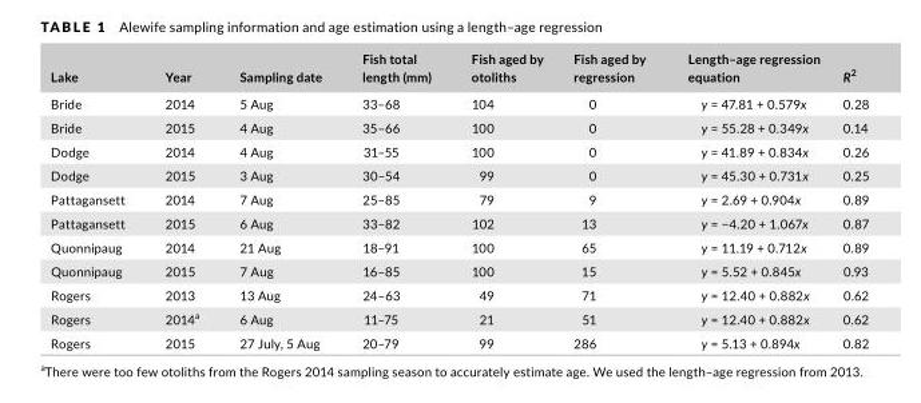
<table><thead><tr><td>Lake</td><td>Year</td><td>Sampling date</td><td>Fish total length (mm)</td><td>Fish aged by otoliths</td><td>Fish aged by regression</td><td>Length–age regression equation</td><td>R<sup>2</sup></td></tr></thead><tbody><tr><td>Bride</td><td>2014</td><td>5 Aug</td><td>33–68</td><td>104</td><td>0</td><td>y = 47.81 + 0.579x</td><td>0.28</td></tr><tr><td>Bride</td><td>2015</td><td>4 Aug</td><td>35–66</td><td>100</td><td>0</td><td>y = 55.28 + 0.349x</td><td>0.14</td></tr><tr><td>Dodge</td><td>2014</td><td>4 Aug</td><td>31–55</td><td>100</td><td>0</td><td>y = 41.89 + 0.834x</td><td>0.26</td></tr><tr><td>Dodge</td><td>2015</td><td>3 Aug</td><td>30–54</td><td>99</td><td>0</td><td>y = 45.30 + 0.731x</td><td>0.25</td></tr><tr><td>Pattagansett</td><td>2014</td><td>7 Aug</td><td>25–85</td><td>79</td><td>9</td><td>y = 2.69 + 0.904x</td><td>0.89</td></tr><tr><td>Pattagansett</td><td>2015</td><td>6 Aug</td><td>33–82</td><td>102</td><td>13</td><td>y = −4.20 + 1.067x</td><td>0.87</td></tr><tr><td>Quonnipaug</td><td>2014</td><td>21 Aug</td><td>18–91</td><td>100</td><td>65</td><td>y = 11.19 + 0.712x</td><td>0.89</td></tr><tr><td>Quonnipaug</td><td>2015</td><td>7 Aug</td><td>16–85</td><td>100</td><td>15</td><td>y = 5.52 + 0.845x</td><td>0.93</td></tr><tr><td>Rogers</td><td>2013</td><td>13 Aug</td><td>24–63</td><td>49</td><td>71</td><td>y = 12.40 + 0.882x</td><td>0.62</td></tr><tr><td>Rogers</td><td>2014<sup>a</sup></td><td>6 Aug</td><td>11–75</td><td>21</td><td>51</td><td>y = 12.40 + 0.882x</td><td>0.62</td></tr><tr><td>Rogers</td><td>2015</td><td>27 July, 5 Aug</td><td>20–79</td><td>99</td><td>286</td><td>y = 5.13 + 0.894x</td><td>0.82</td></tr></tbody></table>